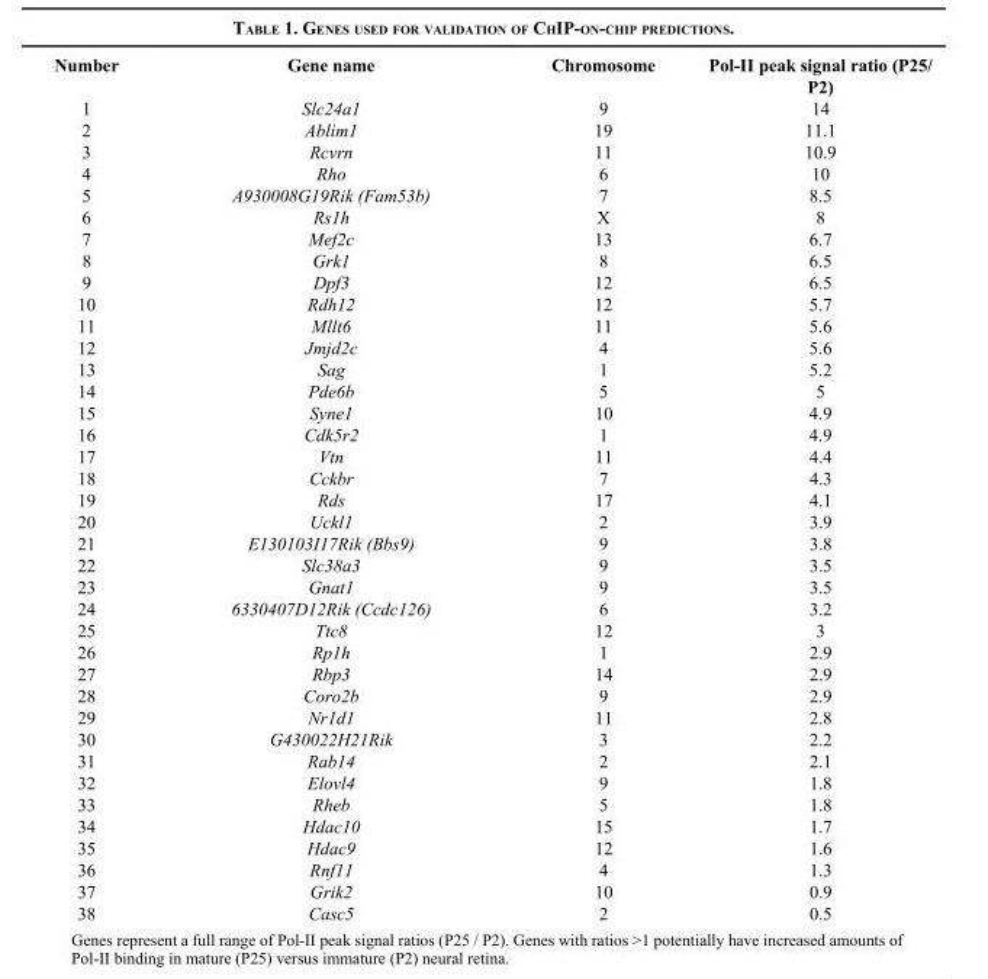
<table><thead><tr><td>Number</td><td>Gene name</td><td>Chromosome</td><td>Pol-II peak signal ratio (P25/ P2)</td></tr></thead><tbody><tr><td>1</td><td>Slc24a1</td><td>9</td><td>14</td></tr><tr><td>2</td><td>Ablim1</td><td>19</td><td>11.1</td></tr><tr><td>3</td><td>Rcvrn</td><td>11</td><td>10.9</td></tr><tr><td>4</td><td>Rho</td><td>6</td><td>10</td></tr><tr><td>5</td><td>A930008G19Rik (Fam53b)</td><td>7</td><td>8.5</td></tr><tr><td>6</td><td>Rs1h</td><td>X</td><td>8</td></tr><tr><td>7</td><td>Mef2c</td><td>13</td><td>6.7</td></tr><tr><td>8</td><td>Grk1</td><td>8</td><td>6.5</td></tr><tr><td>9</td><td>Dpf3</td><td>12</td><td>6.5</td></tr><tr><td>10</td><td>Rdh12</td><td>12</td><td>5.7</td></tr><tr><td>11</td><td>Mllt6</td><td>11</td><td>5.6</td></tr><tr><td>12</td><td>Jmjd2c</td><td>4</td><td>5.6</td></tr><tr><td>13</td><td>Sag</td><td>1</td><td>5.2</td></tr><tr><td>14</td><td>Pde6b</td><td>5</td><td>5</td></tr><tr><td>15</td><td>Syne1</td><td>10</td><td>4.9</td></tr><tr><td>16</td><td>Cdk5r2</td><td>1</td><td>4.9</td></tr><tr><td>17</td><td>Vtn</td><td>11</td><td>4.4</td></tr><tr><td>18</td><td>Cckbr</td><td>7</td><td>4.3</td></tr><tr><td>19</td><td>Rds</td><td>17</td><td>4.1</td></tr><tr><td>20</td><td>Uckl1</td><td>2</td><td>3.9</td></tr><tr><td>21</td><td>E130103I17Rik (Bbs9)</td><td>9</td><td>3.8</td></tr><tr><td>22</td><td>Slc38a3</td><td>9</td><td>3.5</td></tr><tr><td>23</td><td>Gnat1</td><td>9</td><td>3.5</td></tr><tr><td>24</td><td>6330407D12Rik (Ccdc126)</td><td>6</td><td>3.2</td></tr><tr><td>25</td><td>Ttc8</td><td>12</td><td>3</td></tr><tr><td>26</td><td>Rp1h</td><td>1</td><td>2.9</td></tr><tr><td>27</td><td>Rbp3</td><td>14</td><td>2.9</td></tr><tr><td>28</td><td>Coro2b</td><td>9</td><td>2.9</td></tr><tr><td>29</td><td>Nr1d1</td><td>11</td><td>2.8</td></tr><tr><td>30</td><td>G430022H21Rik</td><td>3</td><td>2.2</td></tr><tr><td>31</td><td>Rab14</td><td>2</td><td>2.1</td></tr><tr><td>32</td><td>Elovl4</td><td>9</td><td>1.8</td></tr><tr><td>33</td><td>Rheb</td><td>5</td><td>1.8</td></tr><tr><td>34</td><td>Hdac10</td><td>15</td><td>1.7</td></tr><tr><td>35</td><td>Hdac9</td><td>12</td><td>1.6</td></tr><tr><td>36</td><td>Rnf11</td><td>4</td><td>1.3</td></tr><tr><td>37</td><td>Grik2</td><td>10</td><td>0.9</td></tr><tr><td>38</td><td>Casc5</td><td>2</td><td>0.5</td></tr></tbody></table>